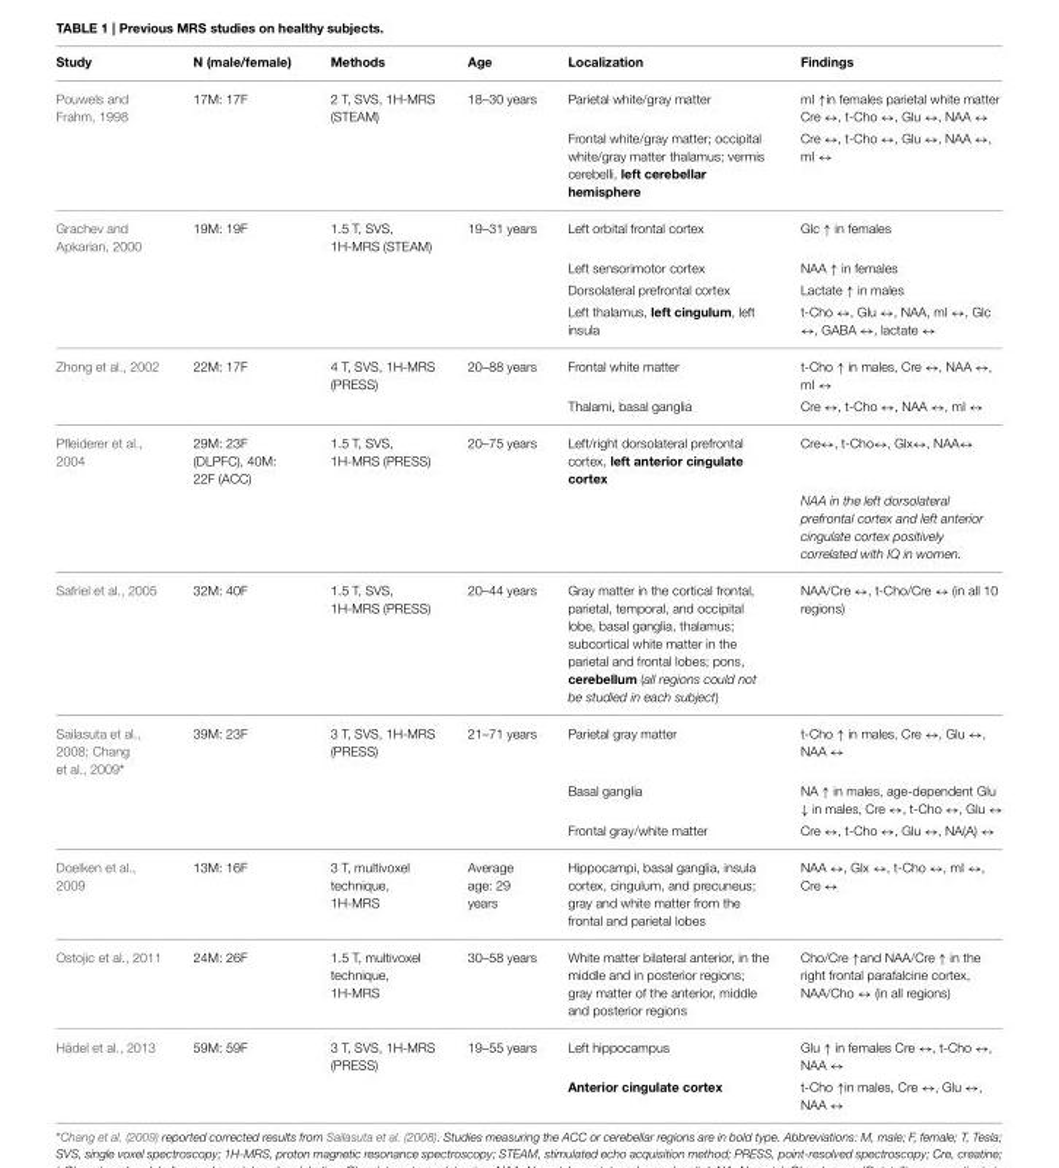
<table><thead><tr><td>Study</td><td>N (male/female)</td><td>Methods</td><td>Age</td><td>Localization</td><td>Findings</td></tr></thead><tbody><tr><td rowspan="2">Pouwels and Frahm, 1998</td><td>17M: 17F</td><td>2 T, SVS, 1H-MRS (STEAM)</td><td>18–30 years</td><td>Parietal white/gray matter</td><td>mI ↑in females parietal white matter Cre ↔, t-Cho ↔, Glu ↔, NAA ↔</td></tr><tr><td></td><td></td><td></td><td>Frontal white/gray matter; occipital white/gray matter thalamus; vermis cerebelli, left cerebellar hemisphere</td><td>Cre ↔, t-Cho ↔, Glu ↔, NAA ↔, mI ↔</td></tr><tr><td rowspan="4">Grachev and Apkarian, 2000</td><td>19M: 19F</td><td>1.5 T, SVS, 1H-MRS (STEAM)</td><td>19–31 years</td><td>Left orbital frontal cortex</td><td>Glc ↑ in females</td></tr><tr><td></td><td></td><td></td><td>Left sensorimotor cortex</td><td>NAA ↑ in females</td></tr><tr><td></td><td></td><td></td><td>Dorsolateral prefrontal cortex</td><td>Lactate ↑ in males</td></tr><tr><td></td><td></td><td></td><td>Left thalamus, left cingulum, left insula</td><td>t-Cho ↔, Glu ↔, NAA, mI ↔, Glc ↔, GABA ↔, lactate ↔</td></tr><tr><td rowspan="2">Zhong et al., 2002</td><td>22M: 17F</td><td>4 T, SVS, 1H-MRS (PRESS)</td><td>20–88 years</td><td>Frontal white matter</td><td>t-Cho ↑ in males, Cre ↔, NAA ↔, mI ↔</td></tr><tr><td></td><td></td><td></td><td>Thalami, basal ganglia</td><td>Cre ↔, t-Cho ↔, NAA ↔, mI ↔</td></tr><tr><td rowspan="2">Pfleiderer et al., 2004</td><td>29M: 23F (DLPFC), 40M: 22F (ACC)</td><td>1.5 T, SVS, 1H-MRS (PRESS)</td><td>20–75 years</td><td>Left/right dorsolateral prefrontal cortex, left anterior cingulate cortex</td><td>Cre↔, t-Cho↔, Glx↔, NAA↔</td></tr><tr><td></td><td></td><td></td><td></td><td>NAA in the left dorsolateral prefrontal cortex and left anterior cingulate cortex positively correlated with IQ in women.</td></tr><tr><td>Safriel et al., 2005</td><td>32M: 40F</td><td>1.5 T, SVS, 1H-MRS (PRESS)</td><td>20–44 years</td><td>Gray matter in the cortical frontal, parietal, temporal, and occipital lobe, basal ganglia, thalamus; subcortical white matter in the parietal and frontal lobes; pons, cerebellum (all regions could not be studied in each subject)</td><td>NAA/Cre ↔, t-Cho/Cre ↔ (in all 10 regions)</td></tr><tr><td rowspan="3">Sailasuta et al., 2008; Chang et al., 2009*</td><td>39M: 23F</td><td>3 T, SVS, 1H-MRS (PRESS)</td><td>21–71 years</td><td>Parietal gray matter</td><td>t-Cho ↑ in males, Cre ↔, Glu ↔, NAA ↔</td></tr><tr><td></td><td></td><td></td><td>Basal ganglia</td><td>NA ↑ in males, age-dependent Glu ↓ in males, Cre ↔, t-Cho ↔, Glu ↔</td></tr><tr><td></td><td></td><td></td><td>Frontal gray/white matter</td><td>Cre ↔, t-Cho ↔, Glu ↔, NA(A) ↔</td></tr><tr><td>Doelken et al., 2009</td><td>13M: 16F</td><td>3 T, multivoxel technique, 1H-MRS</td><td>Average age: 29 years</td><td>Hippocampi, basal ganglia, insula cortex, cingulum, and precuneus; gray and white matter from the frontal and parietal lobes</td><td>NAA ↔, Glx ↔, t-Cho ↔, mI ↔, Cre ↔</td></tr><tr><td>Ostojic et al., 2011</td><td>24M: 26F</td><td>1.5 T, multivoxel technique, 1H-MRS</td><td>30–58 years</td><td>White matter bilateral anterior, in the middle and in posterior regions; gray matter of the anterior, middle and posterior regions</td><td>Cho/Cre ↑and NAA/Cre ↑ in the right frontal parafalcine cortex, NAA/Cho ↔ (in all regions)</td></tr><tr><td rowspan="2">Hädel et al., 2013</td><td>59M: 59F</td><td>3 T, SVS, 1H-MRS (PRESS)</td><td>19–55 years</td><td>Left hippocampus</td><td>Glu ↑ in females Cre ↔, t-Cho ↔, NAA ↔</td></tr><tr><td></td><td></td><td></td><td>Anterior cingulate cortex</td><td>t-Cho ↑in males, Cre ↔, Glu ↔, NAA ↔</td></tr></tbody></table>